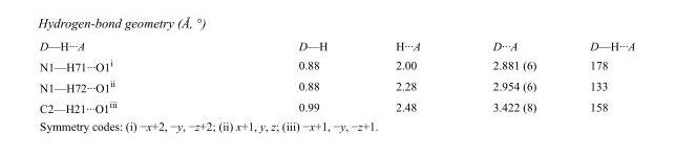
<table><tbody><tr><td>D—H···A</td><td>D—H</td><td>H···A</td><td>D···A</td><td>D—H···A</td></tr><tr><td>N1—H71···O1<sup>i</sup></td><td>0.88</td><td>2.00</td><td>2.881 (6)</td><td>178</td></tr><tr><td>N1—H72···O1<sup>ii</sup></td><td>0.88</td><td>2.28</td><td>2.954 (6)</td><td>133</td></tr><tr><td>C2—H21···O1<sup>iii</sup></td><td>0.99</td><td>2.48</td><td>3.422 (8)</td><td>158</td></tr></tbody></table>